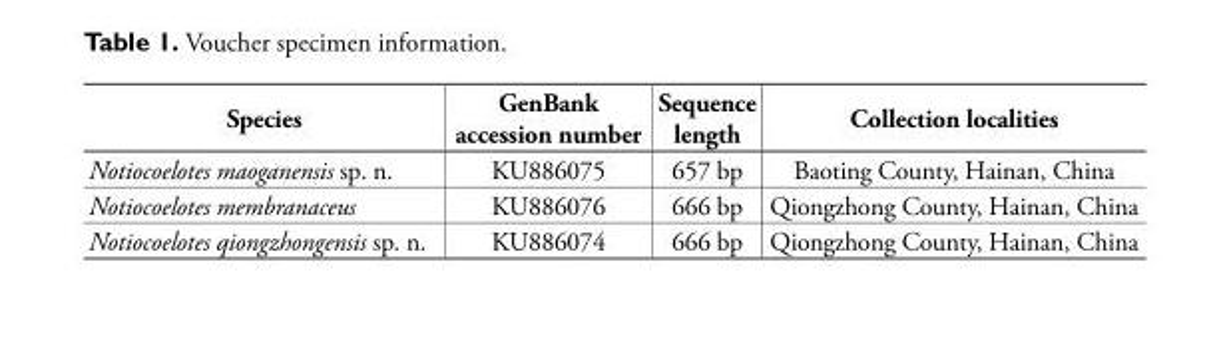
<table><thead><tr><td>Species</td><td>GenBank accession number</td><td>Sequence length</td><td>Collection localities</td></tr></thead><tbody><tr><td>Notiocoelotes maoganensis sp. n.</td><td>KU886075</td><td>657 bp</td><td>Baoting County, Hainan, China</td></tr><tr><td>Notiocoelotes membranaceus</td><td>KU886076</td><td>666 bp</td><td>Qiongzhong County, Hainan, China</td></tr><tr><td>Notiocoelotes qiongzhongensis sp. n.</td><td>KU886074</td><td>666 bp</td><td>Qiongzhong County, Hainan, China</td></tr></tbody></table>